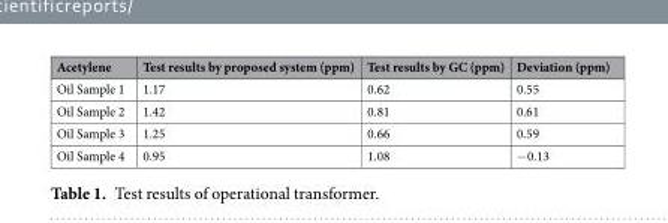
<table><thead><tr><td>Acetylene</td><td>Test results by proposed system (ppm)</td><td>Test results by GC (ppm)</td><td>Deviation (ppm)</td></tr></thead><tbody><tr><td>Oil Sample 1</td><td>1.17</td><td>0.62</td><td>0.55</td></tr><tr><td>Oil Sample 2</td><td>1.42</td><td>0.81</td><td>0.61</td></tr><tr><td>Oil Sample 3</td><td>1.25</td><td>0.66</td><td>0.59</td></tr><tr><td>Oil Sample 4</td><td>0.95</td><td>1.08</td><td>−0.13</td></tr></tbody></table>